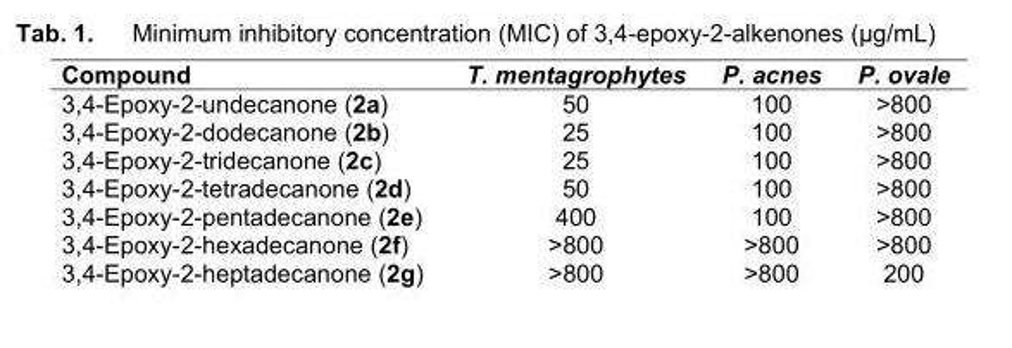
<table><thead><tr><td>Compound</td><td>T. mentagrophytes</td><td>P. acnes</td><td>P. ovale</td></tr></thead><tbody><tr><td>3,4-Epoxy-2-undecanone (2a)</td><td>50</td><td>100</td><td>&gt;800</td></tr><tr><td>3,4-Epoxy-2-dodecanone (2b)</td><td>25</td><td>100</td><td>&gt;800</td></tr><tr><td>3,4-Epoxy-2-tridecanone (2c)</td><td>25</td><td>100</td><td>&gt;800</td></tr><tr><td>3,4-Epoxy-2-tetradecanone (2d)</td><td>50</td><td>100</td><td>&gt;800</td></tr><tr><td>3,4-Epoxy-2-pentadecanone (2e)</td><td>400</td><td>100</td><td>&gt;800</td></tr><tr><td>3,4-Epoxy-2-hexadecanone (2f)</td><td>&gt;800</td><td>&gt;800</td><td>&gt;800</td></tr><tr><td>3,4-Epoxy-2-heptadecanone (2g)</td><td>&gt;800</td><td>&gt;800</td><td>200</td></tr></tbody></table>